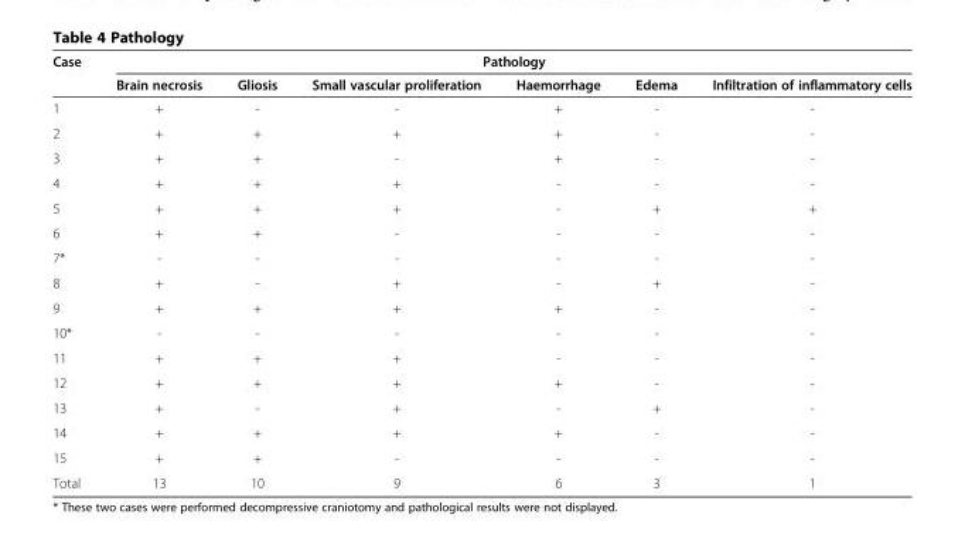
<table><thead><tr><td rowspan="2">Case</td><td colspan="6">Pathology</td></tr><tr><td>Brain necrosis</td><td>Gliosis</td><td>Small vascular proliferation</td><td>Haemorrhage</td><td>Edema</td><td>Infiltration of inflammatory cells</td></tr></thead><tbody><tr><td>1</td><td>+</td><td>-</td><td>-</td><td>+</td><td>-</td><td>-</td></tr><tr><td>2</td><td>+</td><td>+</td><td>+</td><td>+</td><td>-</td><td>-</td></tr><tr><td>3</td><td>+</td><td>+</td><td>-</td><td>+</td><td>-</td><td>-</td></tr><tr><td>4</td><td>+</td><td>+</td><td>+</td><td>-</td><td>-</td><td>-</td></tr><tr><td>5</td><td>+</td><td>+</td><td>+</td><td>-</td><td>+</td><td>+</td></tr><tr><td>6</td><td>+</td><td>+</td><td>-</td><td>-</td><td>-</td><td>-</td></tr><tr><td>7*</td><td>-</td><td>-</td><td>-</td><td>-</td><td>-</td><td>-</td></tr><tr><td>8</td><td>+</td><td>-</td><td>+</td><td>-</td><td>+</td><td>-</td></tr><tr><td>9</td><td>+</td><td>+</td><td>+</td><td>+</td><td>-</td><td>-</td></tr><tr><td>10*</td><td>-</td><td>-</td><td>-</td><td>-</td><td>-</td><td>-</td></tr><tr><td>11</td><td>+</td><td>+</td><td>+</td><td>-</td><td>-</td><td>-</td></tr><tr><td>12</td><td>+</td><td>+</td><td>+</td><td>+</td><td>-</td><td>-</td></tr><tr><td>13</td><td>+</td><td>-</td><td>+</td><td>-</td><td>+</td><td>-</td></tr><tr><td>14</td><td>+</td><td>+</td><td>+</td><td>+</td><td>-</td><td>-</td></tr><tr><td>15</td><td>+</td><td>+</td><td>-</td><td>-</td><td>-</td><td>-</td></tr><tr><td>Total</td><td>13</td><td>10</td><td>9</td><td>6</td><td>3</td><td>1</td></tr></tbody></table>